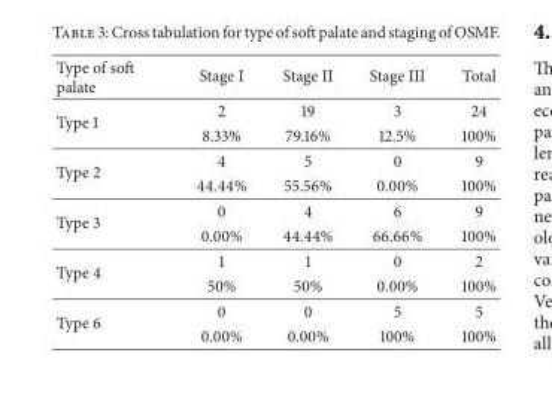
<table><thead><tr><td>Type of soft palate</td><td>Stage I</td><td>Stage II</td><td>Stage III</td><td>Total</td></tr></thead><tbody><tr><td rowspan="2">Type 1</td><td>2</td><td>19</td><td>3</td><td>24</td></tr><tr><td>8.33%</td><td>79.16%</td><td>12.5%</td><td>100%</td></tr><tr><td rowspan="2">Type 2</td><td>4</td><td>5</td><td>0</td><td>9</td></tr><tr><td>44.44%</td><td>55.56%</td><td>0.00%</td><td>100%</td></tr><tr><td rowspan="2">Type 3</td><td>0</td><td>4</td><td>6</td><td>9</td></tr><tr><td>0.00%</td><td>44.44%</td><td>66.66%</td><td>100%</td></tr><tr><td rowspan="2">Type 4</td><td>1</td><td>1</td><td>0</td><td>2</td></tr><tr><td>50%</td><td>50%</td><td>0.00%</td><td>100%</td></tr><tr><td rowspan="2">Type 6</td><td>0</td><td>0</td><td>5</td><td>5</td></tr><tr><td>0.00%</td><td>0.00%</td><td>100%</td><td>100%</td></tr></tbody></table>